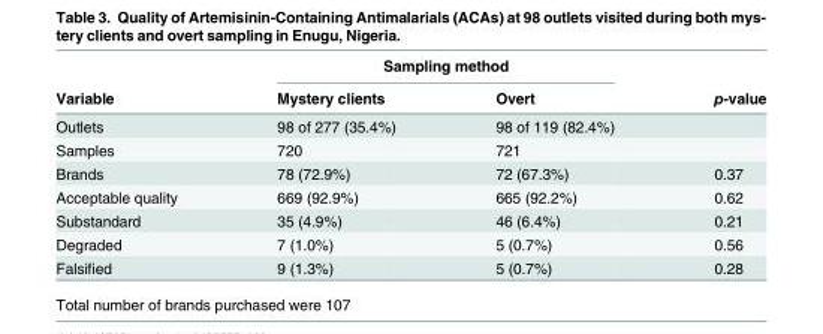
<table><thead><tr><td rowspan="2">Variable</td><td colspan="2">Sampling method</td><td rowspan="2">p-value</td></tr><tr><td>Mystery clients</td><td>Overt</td></tr></thead><tbody><tr><td>Outlets</td><td>98 of 277 (35.4%)</td><td>98 of 119 (82.4%)</td><td></td></tr><tr><td>Samples</td><td>720</td><td>721</td><td></td></tr><tr><td>Brands</td><td>78 (72.9%)</td><td>72 (67.3%)</td><td>0.37</td></tr><tr><td>Acceptable quality</td><td>669 (92.9%)</td><td>665 (92.2%)</td><td>0.62</td></tr><tr><td>Substandard</td><td>35 (4.9%)</td><td>46 (6.4%)</td><td>0.21</td></tr><tr><td>Degraded</td><td>7 (1.0%)</td><td>5 (0.7%)</td><td>0.56</td></tr><tr><td>Falsified</td><td>9 (1.3%)</td><td>5 (0.7%)</td><td>0.28</td></tr></tbody></table>